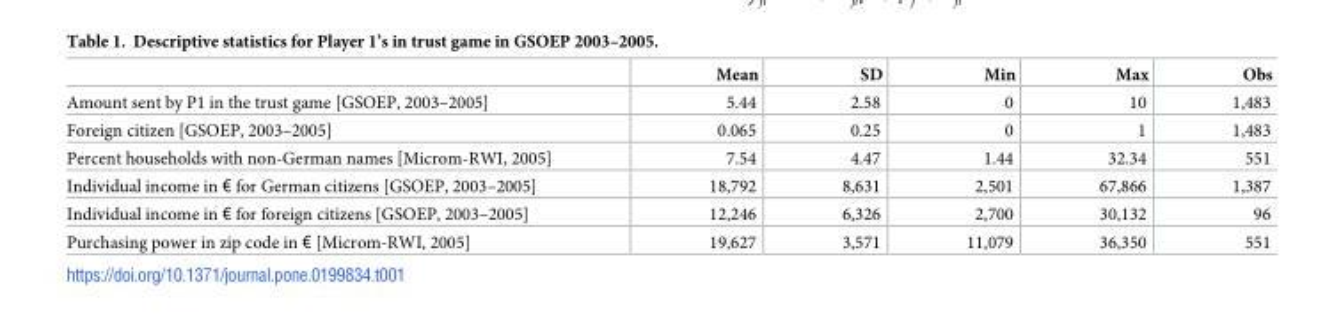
<table><thead><tr><td></td><td>Mean</td><td>SD</td><td>Min</td><td>Max</td><td>Obs</td></tr></thead><tbody><tr><td>Amount sent by P1 in the trust game [GSOEP, 2003–2005]</td><td>5.44</td><td>2.58</td><td>0</td><td>10</td><td>1,483</td></tr><tr><td>Foreign citizen [GSOEP, 2003–2005]</td><td>0.065</td><td>0.25</td><td>0</td><td>1</td><td>1,483</td></tr><tr><td>Percent households with non-German names [Microm-RWI, 2005]</td><td>7.54</td><td>4.47</td><td>1.44</td><td>32.34</td><td>551</td></tr><tr><td>Individual income in € for German citizens [GSOEP, 2003–2005]</td><td>18,792</td><td>8,631</td><td>2,501</td><td>67,866</td><td>1,387</td></tr><tr><td>Individual income in € for foreign citizens [GSOEP, 2003–2005]</td><td>12,246</td><td>6,326</td><td>2,700</td><td>30,132</td><td>96</td></tr><tr><td>Purchasing power in zip code in € [Microm-RWI, 2005]</td><td>19,627</td><td>3,571</td><td>11,079</td><td>36,350</td><td>551</td></tr></tbody></table>